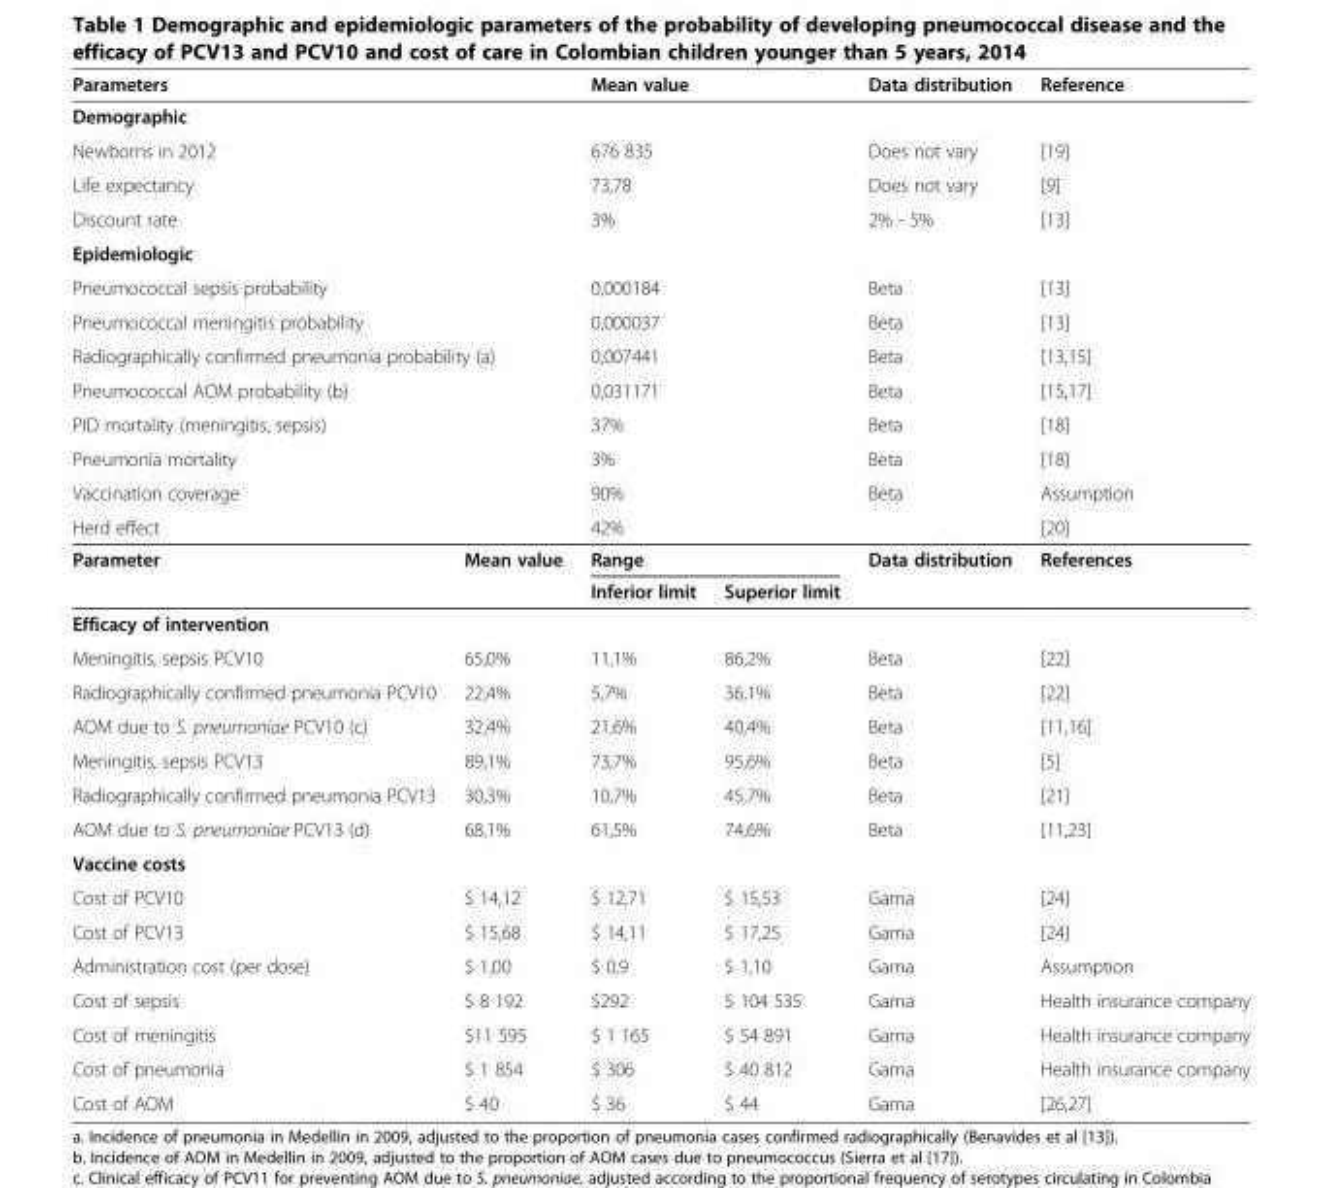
<table><thead><tr><td colspan="2">Parameters</td><td colspan="2">Mean value</td><td>Data distribution</td><td>Reference</td></tr></thead><tbody><tr><td colspan="6">Demographic</td></tr><tr><td colspan="2">Newborns in 2012</td><td colspan="2">676 835</td><td>Does not vary</td><td>[19]</td></tr><tr><td colspan="2">Life expectancy</td><td colspan="2">73,78</td><td>Does not vary</td><td>[9]</td></tr><tr><td colspan="2">Discount rate</td><td colspan="2">3%</td><td>2% - 5%</td><td>[13]</td></tr><tr><td colspan="6">Epidemiologic</td></tr><tr><td colspan="2">Pneumococcal sepsis probability</td><td colspan="2">0,000184</td><td>Beta</td><td>[13]</td></tr><tr><td colspan="2">Pneumococcal meningitis probability</td><td colspan="2">0,000037</td><td>Beta</td><td>[13]</td></tr><tr><td colspan="2">Radiographically confirmed pneumonia probability (a)</td><td colspan="2">0,007441</td><td>Beta</td><td>[13,15]</td></tr><tr><td colspan="2">Pneumococcal AOM probability (b)</td><td colspan="2">0,031171</td><td>Beta</td><td>[15,17]</td></tr><tr><td colspan="2">PID mortality (meningitis, sepsis)</td><td colspan="2">37%</td><td>Beta</td><td>[18]</td></tr><tr><td colspan="2">Pneumonia mortality</td><td colspan="2">3%</td><td>Beta</td><td>[18]</td></tr><tr><td colspan="2">Vaccination coverage</td><td colspan="2">90%</td><td>Beta</td><td>Assumption</td></tr><tr><td colspan="2">Herd effect</td><td colspan="2">42%</td><td></td><td>[20]</td></tr><tr><td rowspan="2">Parameter</td><td rowspan="2">Mean value</td><td colspan="2">Range</td><td rowspan="2">Data distribution</td><td rowspan="2">References</td></tr><tr><td>Inferior limit</td><td>Superior limit</td></tr><tr><td colspan="6">Efficacy of intervention</td></tr><tr><td>Meningitis, sepsis PCV10</td><td>65,0%</td><td>11,1%</td><td>86,2%</td><td>Beta</td><td>[22]</td></tr><tr><td>Radiographically confirmed pneumonia PCV10</td><td>22,4%</td><td>5,7%</td><td>36,1%</td><td>Beta</td><td>[22]</td></tr><tr><td>AOM due to S. pneumoniae PCV10 (c)</td><td>32,4%</td><td>21,6%</td><td>40,4%</td><td>Beta</td><td>[11,16]</td></tr><tr><td>Meningitis, sepsis PCV13</td><td>89,1%</td><td>73,7%</td><td>95,6%</td><td>Beta</td><td>[5]</td></tr><tr><td>Radiographically confirmed pneumonia PCV13</td><td>30,3%</td><td>10,7%</td><td>45,7%</td><td>Beta</td><td>[21]</td></tr><tr><td>AOM due to S. pneumoniae PCV13 (d)</td><td>68,1%</td><td>61,5%</td><td>74,6%</td><td>Beta</td><td>[11,23]</td></tr><tr><td colspan="6">Vaccine costs</td></tr><tr><td>Cost of PCV10</td><td>$ 14,12</td><td>$ 12,71</td><td>$ 15,53</td><td>Gama</td><td>[24]</td></tr><tr><td>Cost of PCV13</td><td>$ 15,68</td><td>$ 14,11</td><td>$ 17,25</td><td>Gama</td><td>[24]</td></tr><tr><td>Administration cost (per dose)</td><td>$ 1,00</td><td>$ 0,9</td><td>$ 1,10</td><td>Gama</td><td>Assumption</td></tr><tr><td>Cost of sepsis</td><td>$ 8 192</td><td>$292</td><td>$ 104 535</td><td>Gama</td><td>Health insurance company</td></tr><tr><td>Cost of meningitis</td><td>$11 595</td><td>$ 1 165</td><td>$ 54 891</td><td>Gama</td><td>Health insurance company</td></tr><tr><td>Cost of pneumonia</td><td>$ 1 854</td><td>$ 306</td><td>$ 40 812</td><td>Gama</td><td>Health insurance company</td></tr><tr><td>Cost of AOM</td><td>$ 40</td><td>$ 36</td><td>$ 44</td><td>Gama</td><td>[26,27]</td></tr></tbody></table>